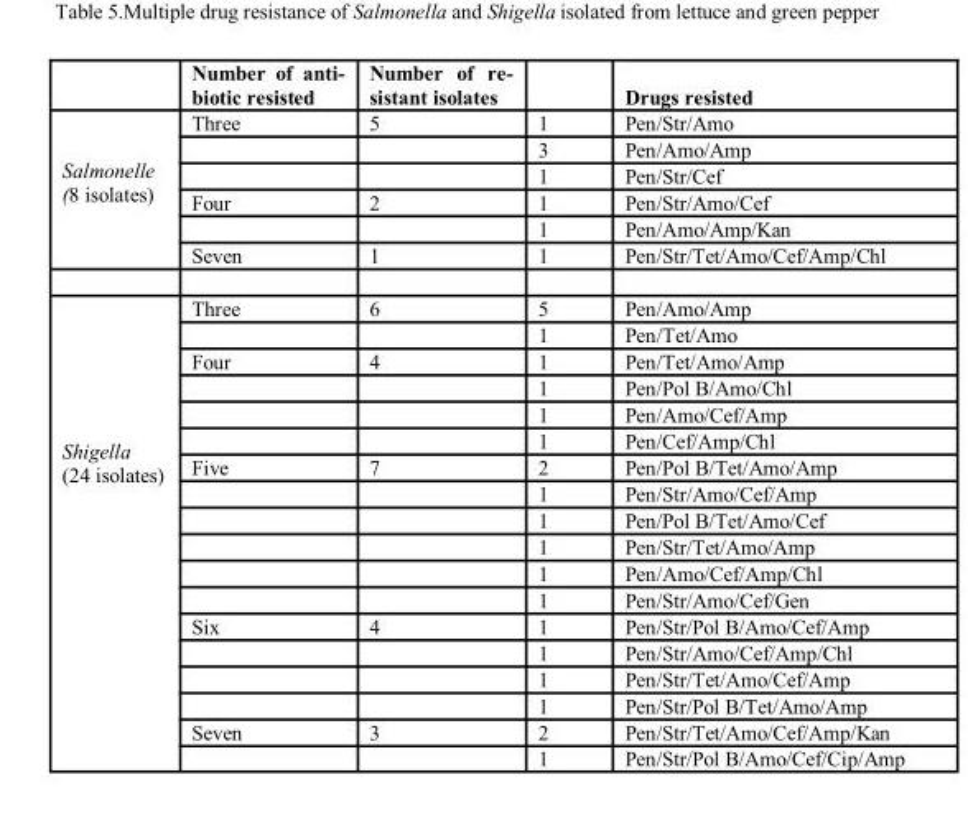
<table><thead><tr><td></td><td>Number of anti- biotic resisted</td><td>Number of re- sistant isolates</td><td></td><td>Drugs resisted</td></tr></thead><tbody><tr><td rowspan="6">Salmonelle (8 isolates)</td><td>Three</td><td>5</td><td>1</td><td>Pen/Str/Amo</td></tr><tr><td></td><td></td><td>3</td><td>Pen/Amo/Amp</td></tr><tr><td></td><td></td><td>1</td><td>Pen/Str/Cef</td></tr><tr><td>Four</td><td>2</td><td>1</td><td>Pen/Str/Amo/Cef</td></tr><tr><td></td><td></td><td>1</td><td>Pen/Amo/Amp/Kan</td></tr><tr><td>Seven</td><td>1</td><td>1</td><td>Pen/Str/Tet/Amo/Cef/Amp/Chl</td></tr><tr><td rowspan="18">Shigella (24 isolates)</td><td>Three</td><td>6</td><td>5</td><td>Pen/Amo/Amp</td></tr><tr><td></td><td></td><td>1</td><td>Pen/Tet/Amo</td></tr><tr><td>Four</td><td>4</td><td>1</td><td>Pen/Tet/Amo/Amp</td></tr><tr><td></td><td></td><td>1</td><td>Pen/Pol B/Amo/Chl</td></tr><tr><td></td><td></td><td>1</td><td>Pen/Amo/Cef/Amp</td></tr><tr><td></td><td></td><td>1</td><td>Pen/Cef/Amp/Chl</td></tr><tr><td>Five</td><td>7</td><td>2</td><td>Pen/Pol B/Tet/Amo/Amp</td></tr><tr><td></td><td></td><td>1</td><td>Pen/Str/Amo/Cef/Amp</td></tr><tr><td></td><td></td><td>1</td><td>Pen/Pol B/Tet/Amo/Cef</td></tr><tr><td></td><td></td><td>1</td><td>Pen/Str/Tet/Amo/Amp</td></tr><tr><td></td><td></td><td>1</td><td>Pen/Amo/Cef/Amp/Chl</td></tr><tr><td></td><td></td><td>1</td><td>Pen/Str/Amo/Cef/Gen</td></tr><tr><td>Six</td><td>4</td><td>1</td><td>Pen/Str/Pol B/Amo/Cef/Amp</td></tr><tr><td></td><td></td><td>1</td><td>Pen/Str/Amo/Cef/Amp/Chl</td></tr><tr><td></td><td></td><td>1</td><td>Pen/Str/Tet/Amo/Cef/Amp</td></tr><tr><td></td><td></td><td>1</td><td>Pen/Str/Pol B/Tet/Amo/Amp</td></tr><tr><td>Seven</td><td>3</td><td>2</td><td>Pen/Str/Tet/Amo/Cef/Amp/Kan</td></tr><tr><td></td><td></td><td>1</td><td>Pen/Str/Pol B/Amo/Cef/Cip/Amp</td></tr></tbody></table>